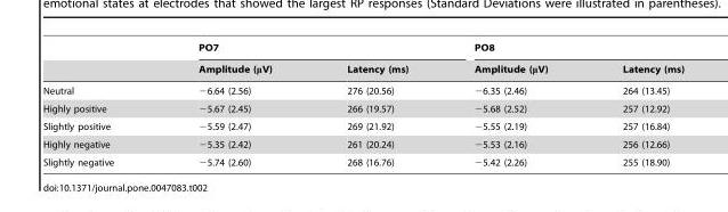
<table><thead><tr><td rowspan="2"></td><td colspan="2">PO7</td><td colspan="2">PO8</td></tr><tr><td>Amplitude (μV)</td><td>Latency (ms)</td><td>Amplitude (μV)</td><td>Latency (ms)</td></tr></thead><tbody><tr><td>Neutral</td><td>−6.64 (2.56)</td><td>276 (20.56)</td><td>−6.35 (2.46)</td><td>264 (13.45)</td></tr><tr><td>Highly positive</td><td>−5.67 (2.45)</td><td>266 (19.57)</td><td>−5.68 (2.52)</td><td>257 (12.92)</td></tr><tr><td>Slightly positive</td><td>−5.59 (2.47)</td><td>269 (21.92)</td><td>−5.55 (2.19)</td><td>257 (16.84)</td></tr><tr><td>Highly negative</td><td>−5.35 (2.42)</td><td>261 (20.24)</td><td>−5.53 (2.16)</td><td>256 (12.66)</td></tr><tr><td>Slightly negative</td><td>−5.74 (2.60)</td><td>268 (16.76)</td><td>−5.42 (2.26)</td><td>255 (18.90)</td></tr></tbody></table>